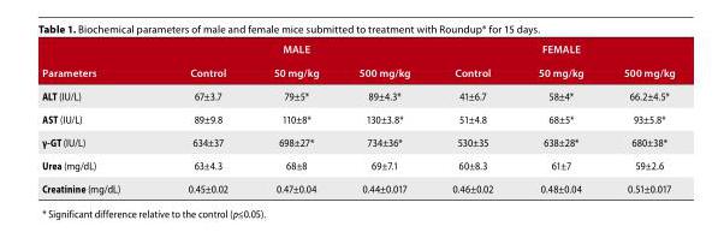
<table><thead><tr><td rowspan="2">Parameters</td><td colspan="3">MALE</td><td colspan="3">FEMALE</td></tr><tr><td>Control</td><td>50 mg/kg</td><td>500 mg/kg</td><td>Control</td><td>50 mg/kg</td><td>500 mg/kg</td></tr></thead><tbody><tr><td>ALT (IU/L)</td><td>67±3.7</td><td>79±5*</td><td>89±4.3*</td><td>41±6.7</td><td>58±4*</td><td>66.2±4.5*</td></tr><tr><td>AST (IU/L)</td><td>89±9.8</td><td>110±8*</td><td>130±3.8*</td><td>51±4.8</td><td>68±5*</td><td>93±5.8*</td></tr><tr><td>γ-GT (IU/L)</td><td>634±37</td><td>698±27*</td><td>734±36*</td><td>530±35</td><td>638±28*</td><td>680±38*</td></tr><tr><td>Urea (mg/dL)</td><td>63±4.3</td><td>68±8</td><td>69±7.1</td><td>60±8.3</td><td>61±7</td><td>59±2.6</td></tr><tr><td>Creatinine (mg/dL)</td><td>0.45±0.02</td><td>0.47±0.04</td><td>0.44±0.017</td><td>0.46±0.02</td><td>0.48±0.04</td><td>0.51±0.017</td></tr></tbody></table>